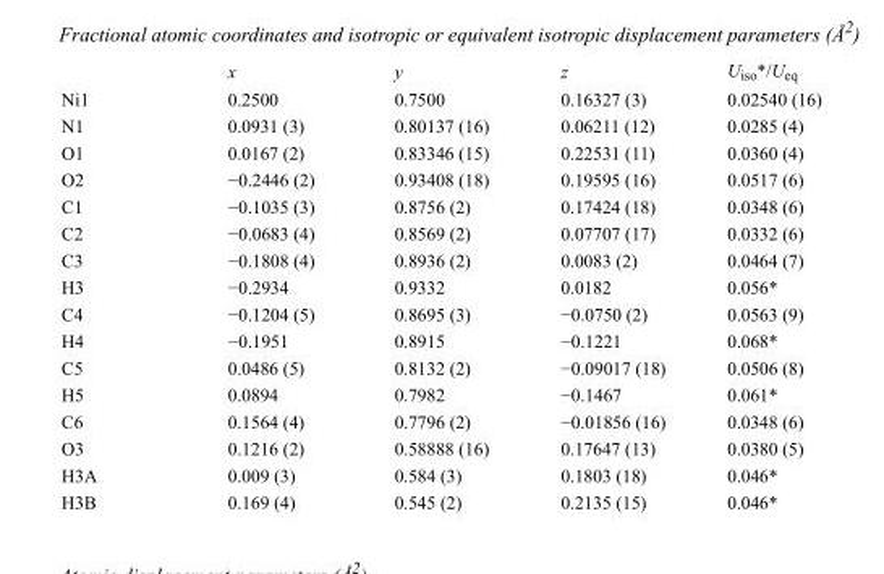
<table><thead><tr><td></td><td>x</td><td>y</td><td>z</td><td>U<sub>iso</sub>*/U<sub>eq</sub></td></tr></thead><tbody><tr><td>Ni1</td><td>0.2500</td><td>0.7500</td><td>0.16327 (3)</td><td>0.02540 (16)</td></tr><tr><td>N1</td><td>0.0931 (3)</td><td>0.80137 (16)</td><td>0.06211 (12)</td><td>0.0285 (4)</td></tr><tr><td>O1</td><td>0.0167 (2)</td><td>0.83346 (15)</td><td>0.22531 (11)</td><td>0.0360 (4)</td></tr><tr><td>O2</td><td>−0.2446 (2)</td><td>0.93408 (18)</td><td>0.19595 (16)</td><td>0.0517 (6)</td></tr><tr><td>C1</td><td>−0.1035 (3)</td><td>0.8756 (2)</td><td>0.17424 (18)</td><td>0.0348 (6)</td></tr><tr><td>C2</td><td>−0.0683 (4)</td><td>0.8569 (2)</td><td>0.07707 (17)</td><td>0.0332 (6)</td></tr><tr><td>C3</td><td>−0.1808 (4)</td><td>0.8936 (2)</td><td>0.0083 (2)</td><td>0.0464 (7)</td></tr><tr><td>H3</td><td>−0.2934</td><td>0.9332</td><td>0.0182</td><td>0.056*</td></tr><tr><td>C4</td><td>−0.1204 (5)</td><td>0.8695 (3)</td><td>−0.0750 (2)</td><td>0.0563 (9)</td></tr><tr><td>H4</td><td>−0.1951</td><td>0.8915</td><td>−0.1221</td><td>0.068*</td></tr><tr><td>C5</td><td>0.0486 (5)</td><td>0.8132 (2)</td><td>−0.09017 (18)</td><td>0.0506 (8)</td></tr><tr><td>H5</td><td>0.0894</td><td>0.7982</td><td>−0.1467</td><td>0.061*</td></tr><tr><td>C6</td><td>0.1564 (4)</td><td>0.7796 (2)</td><td>−0.01856 (16)</td><td>0.0348 (6)</td></tr><tr><td>O3</td><td>0.1216 (2)</td><td>0.58888 (16)</td><td>0.17647 (13)</td><td>0.0380 (5)</td></tr><tr><td>H3A</td><td>0.009 (3)</td><td>0.584 (3)</td><td>0.1803 (18)</td><td>0.046*</td></tr><tr><td>H3B</td><td>0.169 (4)</td><td>0.545 (2)</td><td>0.2135 (15)</td><td>0.046*</td></tr></tbody></table>